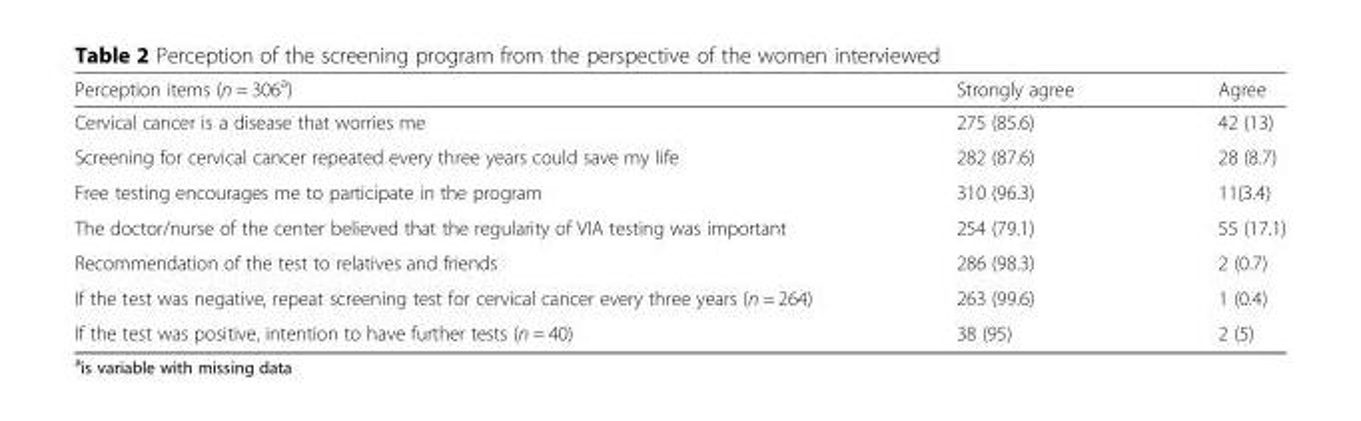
<table><thead><tr><td>Perception items (n = 306<sup>a</sup>)</td><td>Strongly agree</td><td>Agree</td></tr></thead><tbody><tr><td>Cervical cancer is a disease that worries me</td><td>275 (85.6)</td><td>42 (13)</td></tr><tr><td>Screening for cervical cancer repeated every three years could save my life</td><td>282 (87.6)</td><td>28 (8.7)</td></tr><tr><td>Free testing encourages me to participate in the program</td><td>310 (96.3)</td><td>11(3.4)</td></tr><tr><td>The doctor/nurse of the center believed that the regularity of VIA testing was important</td><td>254 (79.1)</td><td>55 (17.1)</td></tr><tr><td>Recommendation of the test to relatives and friends</td><td>286 (98.3)</td><td>2 (0.7)</td></tr><tr><td>If the test was negative, repeat screening test for cervical cancer every three years (n = 264)</td><td>263 (99.6)</td><td>1 (0.4)</td></tr><tr><td>If the test was positive, intention to have further tests (n = 40)</td><td>38 (95)</td><td>2 (5)</td></tr></tbody></table>